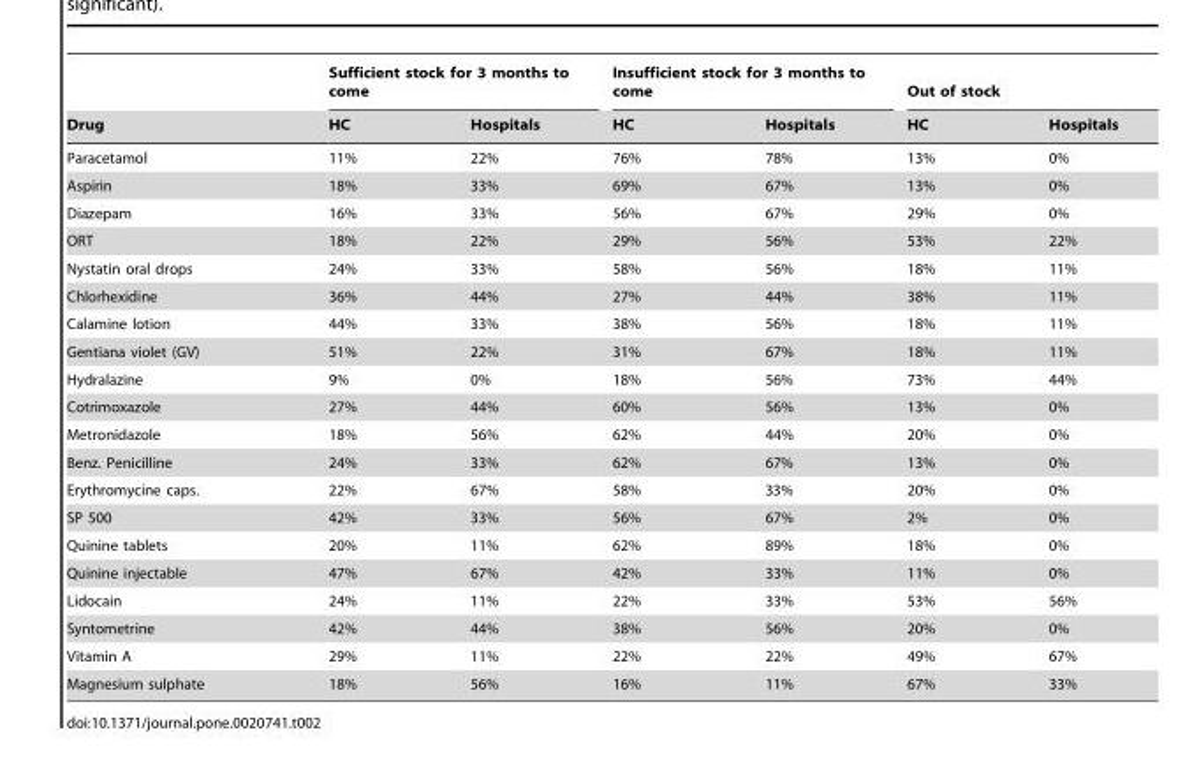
<table><thead><tr><td rowspan="2">Drug</td><td colspan="2">Sufficient stock for 3 months to come</td><td colspan="2">Insufficient stock for 3 months to come</td><td colspan="2">Out of stock</td></tr><tr><td>HC</td><td>Hospitals</td><td>HC</td><td>Hospitals</td><td>HC</td><td>Hospitals</td></tr></thead><tbody><tr><td>Paracetamol</td><td>11%</td><td>22%</td><td>76%</td><td>78%</td><td>13%</td><td>0%</td></tr><tr><td>Aspirin</td><td>18%</td><td>33%</td><td>69%</td><td>67%</td><td>13%</td><td>0%</td></tr><tr><td>Diazepam</td><td>16%</td><td>33%</td><td>56%</td><td>67%</td><td>29%</td><td>0%</td></tr><tr><td>ORT</td><td>18%</td><td>22%</td><td>29%</td><td>56%</td><td>53%</td><td>22%</td></tr><tr><td>Nystatin oral drops</td><td>24%</td><td>33%</td><td>58%</td><td>56%</td><td>18%</td><td>11%</td></tr><tr><td>Chlorhexidine</td><td>36%</td><td>44%</td><td>27%</td><td>44%</td><td>38%</td><td>11%</td></tr><tr><td>Calamine lotion</td><td>44%</td><td>33%</td><td>38%</td><td>56%</td><td>18%</td><td>11%</td></tr><tr><td>Gentiana violet (GV)</td><td>51%</td><td>22%</td><td>31%</td><td>67%</td><td>18%</td><td>11%</td></tr><tr><td>Hydralazine</td><td>9%</td><td>0%</td><td>18%</td><td>56%</td><td>73%</td><td>44%</td></tr><tr><td>Cotrimoxazole</td><td>27%</td><td>44%</td><td>60%</td><td>56%</td><td>13%</td><td>0%</td></tr><tr><td>Metronidazole</td><td>18%</td><td>56%</td><td>62%</td><td>44%</td><td>20%</td><td>0%</td></tr><tr><td>Benz. Penicilline</td><td>24%</td><td>33%</td><td>62%</td><td>67%</td><td>13%</td><td>0%</td></tr><tr><td>Erythromycine caps.</td><td>22%</td><td>67%</td><td>58%</td><td>33%</td><td>20%</td><td>0%</td></tr><tr><td>SP 500</td><td>42%</td><td>33%</td><td>56%</td><td>67%</td><td>2%</td><td>0%</td></tr><tr><td>Quinine tablets</td><td>20%</td><td>11%</td><td>62%</td><td>89%</td><td>18%</td><td>0%</td></tr><tr><td>Quinine injectable</td><td>47%</td><td>67%</td><td>42%</td><td>33%</td><td>11%</td><td>0%</td></tr><tr><td>Lidocain</td><td>24%</td><td>11%</td><td>22%</td><td>33%</td><td>53%</td><td>56%</td></tr><tr><td>Syntometrine</td><td>42%</td><td>44%</td><td>38%</td><td>56%</td><td>20%</td><td>0%</td></tr><tr><td>Vitamin A</td><td>29%</td><td>11%</td><td>22%</td><td>22%</td><td>49%</td><td>67%</td></tr><tr><td>Magnesium sulphate</td><td>18%</td><td>56%</td><td>16%</td><td>11%</td><td>67%</td><td>33%</td></tr></tbody></table>